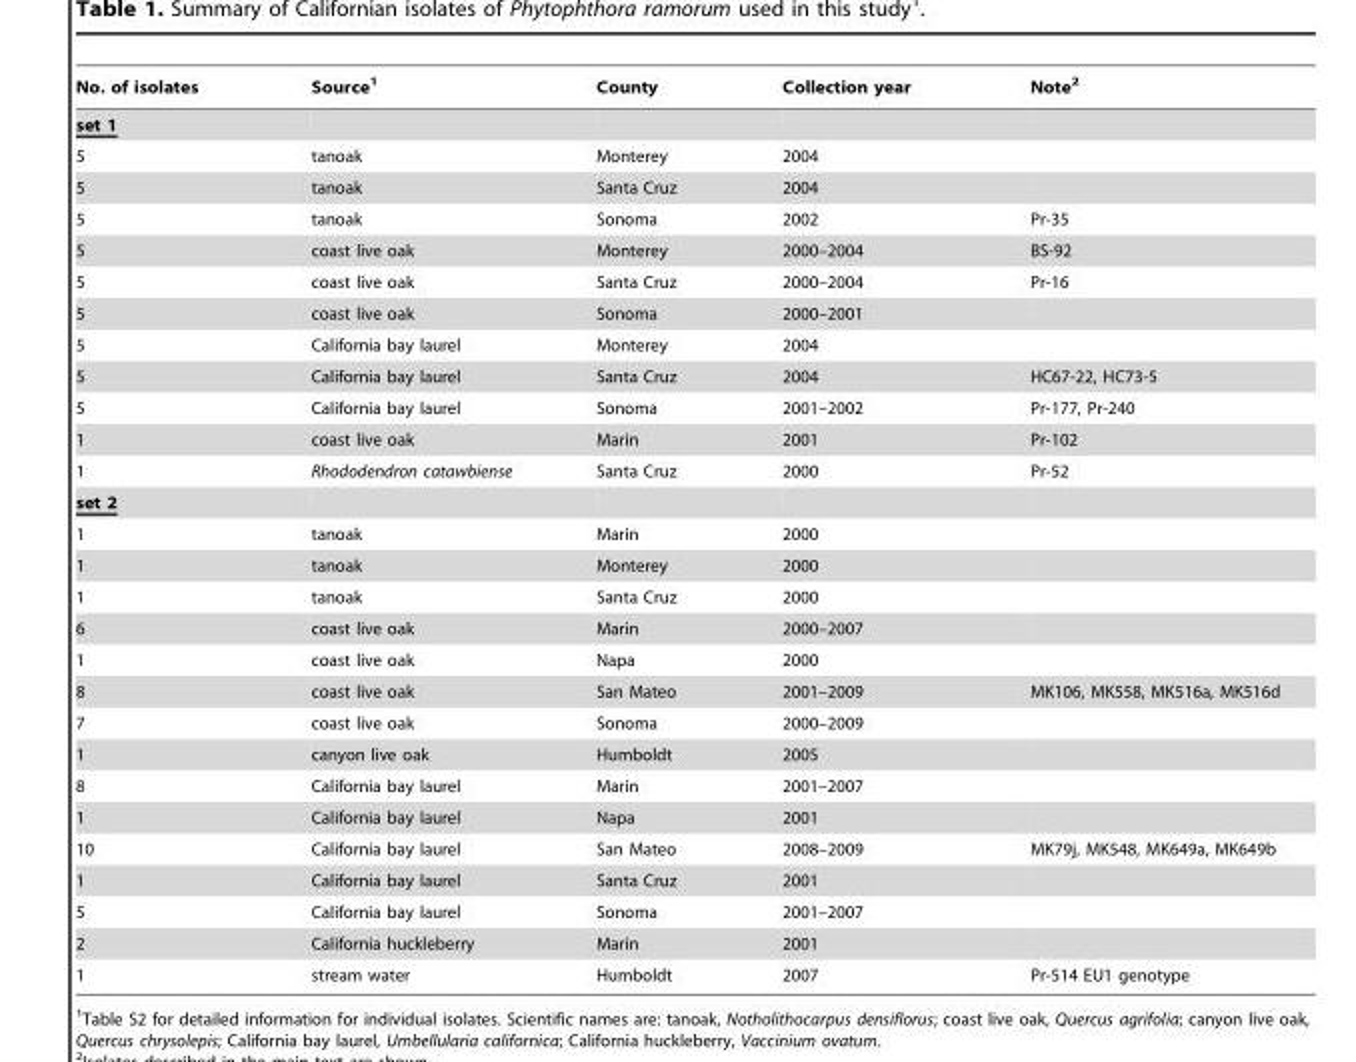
<table><thead><tr><td>No. of isolates</td><td>Source<sup>1</sup></td><td>County</td><td>Collection year</td><td>Note<sup>2</sup></td></tr></thead><tbody><tr><td colspan="5">set 1</td></tr><tr><td>5</td><td>tanoak</td><td>Monterey</td><td>2004</td><td></td></tr><tr><td>5</td><td>tanoak</td><td>Santa Cruz</td><td>2004</td><td></td></tr><tr><td>5</td><td>tanoak</td><td>Sonoma</td><td>2002</td><td>Pr-35</td></tr><tr><td>5</td><td>coast live oak</td><td>Monterey</td><td>2000–2004</td><td>BS-92</td></tr><tr><td>5</td><td>coast live oak</td><td>Santa Cruz</td><td>2000–2004</td><td>Pr-16</td></tr><tr><td>5</td><td>coast live oak</td><td>Sonoma</td><td>2000–2001</td><td></td></tr><tr><td>5</td><td>California bay laurel</td><td>Monterey</td><td>2004</td><td></td></tr><tr><td>5</td><td>California bay laurel</td><td>Santa Cruz</td><td>2004</td><td>HC67-22, HC73-5</td></tr><tr><td>5</td><td>California bay laurel</td><td>Sonoma</td><td>2001–2002</td><td>Pr-177, Pr-240</td></tr><tr><td>1</td><td>coast live oak</td><td>Marin</td><td>2001</td><td>Pr-102</td></tr><tr><td>1</td><td>Rhododendron catawbiense</td><td>Santa Cruz</td><td>2000</td><td>Pr-52</td></tr><tr><td colspan="5">set 2</td></tr><tr><td>1</td><td>tanoak</td><td>Marin</td><td>2000</td><td></td></tr><tr><td>1</td><td>tanoak</td><td>Monterey</td><td>2000</td><td></td></tr><tr><td>1</td><td>tanoak</td><td>Santa Cruz</td><td>2000</td><td></td></tr><tr><td>6</td><td>coast live oak</td><td>Marin</td><td>2000–2007</td><td></td></tr><tr><td>1</td><td>coast live oak</td><td>Napa</td><td>2000</td><td></td></tr><tr><td>8</td><td>coast live oak</td><td>San Mateo</td><td>2001–2009</td><td>MK106, MK558, MK516a, MK516d</td></tr><tr><td>7</td><td>coast live oak</td><td>Sonoma</td><td>2000–2009</td><td></td></tr><tr><td>1</td><td>canyon live oak</td><td>Humboldt</td><td>2005</td><td></td></tr><tr><td>8</td><td>California bay laurel</td><td>Marin</td><td>2001–2007</td><td></td></tr><tr><td>1</td><td>California bay laurel</td><td>Napa</td><td>2001</td><td></td></tr><tr><td>10</td><td>California bay laurel</td><td>San Mateo</td><td>2008–2009</td><td>MK79j, MK548, MK649a, MK649b</td></tr><tr><td>1</td><td>California bay laurel</td><td>Santa Cruz</td><td>2001</td><td></td></tr><tr><td>5</td><td>California bay laurel</td><td>Sonoma</td><td>2001–2007</td><td></td></tr><tr><td>2</td><td>California huckleberry</td><td>Marin</td><td>2001</td><td></td></tr><tr><td>1</td><td>stream water</td><td>Humboldt</td><td>2007</td><td>Pr-514 EU1 genotype</td></tr></tbody></table>